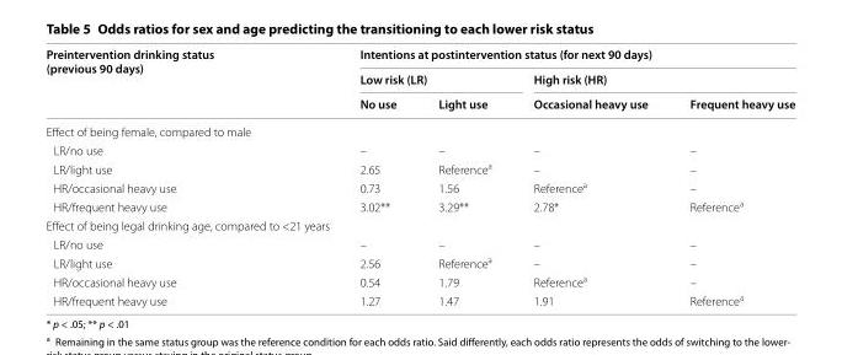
<table><thead><tr><td rowspan="3">Preintervention drinking status (previous 90 days)</td><td colspan="4">Intentions at postintervention status (for next 90 days)</td></tr><tr><td colspan="2">Low risk (LR)</td><td colspan="2">High risk (HR)</td></tr><tr><td>No use</td><td>Light use</td><td>Occasional heavy use</td><td>Frequent heavy use</td></tr></thead><tbody><tr><td colspan="5">Effect of being female, compared to male</td></tr><tr><td>LR/no use</td><td>–</td><td>–</td><td>–</td><td>–</td></tr><tr><td>LR/light use</td><td>2.65</td><td>Reference<sup>a</sup></td><td>–</td><td>–</td></tr><tr><td>HR/occasional heavy use</td><td>0.73</td><td>1.56</td><td>Reference<sup>a</sup></td><td>–</td></tr><tr><td>HR/frequent heavy use</td><td>3.02**</td><td>3.29**</td><td>2.78*</td><td>Reference<sup>a</sup></td></tr><tr><td colspan="5">Effect of being legal drinking age, compared to &lt;21 years</td></tr><tr><td>LR/no use</td><td>–</td><td>–</td><td>–</td><td>–</td></tr><tr><td>LR/light use</td><td>2.56</td><td>Reference<sup>a</sup></td><td>–</td><td>–</td></tr><tr><td>HR/occasional heavy use</td><td>0.54</td><td>1.79</td><td>Reference<sup>a</sup></td><td>–</td></tr><tr><td>HR/frequent heavy use</td><td>1.27</td><td>1.47</td><td>1.91</td><td>Reference<sup>a</sup></td></tr></tbody></table>